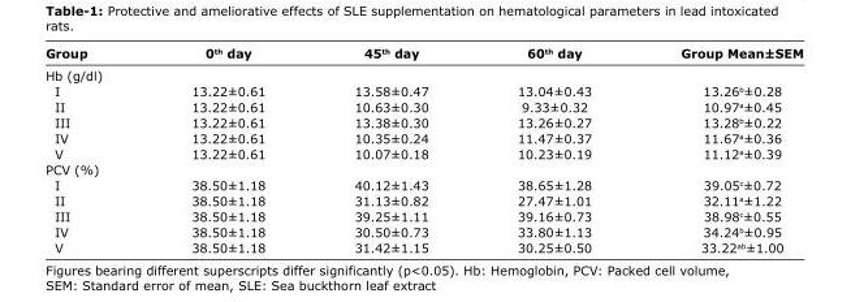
<table><thead><tr><td>Group</td><td>0<sup>th</sup> day</td><td>45<sup>th</sup> day</td><td>60<sup>th</sup> day</td><td>Group Mean±SEM</td></tr></thead><tbody><tr><td colspan="5">Hb (g/dl)</td></tr><tr><td>I</td><td>13.22±0.61</td><td>13.58±0.47</td><td>13.04±0.43</td><td>13.26<sup>b</sup>±0.28</td></tr><tr><td>II</td><td>13.22±0.61</td><td>10.63±0.30</td><td>9.33±0.32</td><td>10.97<sup>a</sup>±0.45</td></tr><tr><td>III</td><td>13.22±0.61</td><td>13.38±0.30</td><td>13.26±0.27</td><td>13.28<sup>b</sup>±0.22</td></tr><tr><td>IV</td><td>13.22±0.61</td><td>10.35±0.24</td><td>11.47±0.37</td><td>11.67<sup>a</sup>±0.36</td></tr><tr><td>V</td><td>13.22±0.61</td><td>10.07±0.18</td><td>10.23±0.19</td><td>11.12<sup>a</sup>±0.39</td></tr><tr><td colspan="5">PCV (%)</td></tr><tr><td>I</td><td>38.50±1.18</td><td>40.12±1.43</td><td>38.65±1.28</td><td>39.05<sup>c</sup>±0.72</td></tr><tr><td>II</td><td>38.50±1.18</td><td>31.13±0.82</td><td>27.47±1.01</td><td>32.11<sup>a</sup>±1.22</td></tr><tr><td>III</td><td>38.50±1.18</td><td>39.25±1.11</td><td>39.16±0.73</td><td>38.98<sup>c</sup>±0.55</td></tr><tr><td>IV</td><td>38.50±1.18</td><td>30.50±0.73</td><td>33.80±1.13</td><td>34.24<sup>b</sup>±0.95</td></tr><tr><td>V</td><td>38.50±1.18</td><td>31.42±1.15</td><td>30.25±0.50</td><td>33.22<sup>ab</sup>±1.00</td></tr></tbody></table>